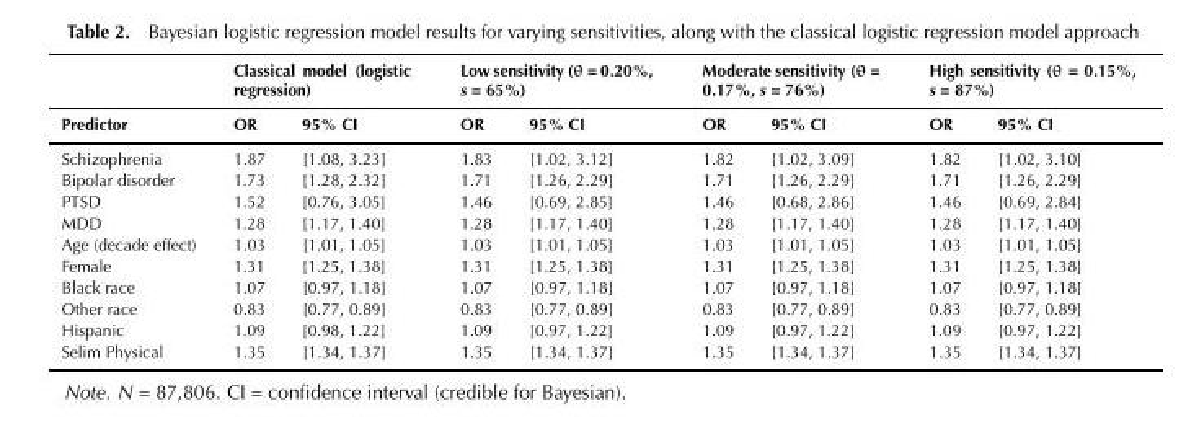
<table><thead><tr><td rowspan="2">Predictor</td><td colspan="2">Classical model (logistic regression)</td><td colspan="2">Low sensitivity (θ = 0.20%, s = 65%)</td><td colspan="2">Moderate sensitivity (θ = 0.17%, s = 76%)</td><td colspan="2">High sensitivity (θ = 0.15%, s = 87%)</td></tr><tr><td>OR</td><td>95% CI</td><td>OR</td><td>95% CI</td><td>OR</td><td>95% CI</td><td>OR</td><td>95% CI</td></tr></thead><tbody><tr><td>Schizophrenia</td><td>1.87</td><td>[1.08, 3.23]</td><td>1.83</td><td>[1.02, 3.12]</td><td>1.82</td><td>[1.02, 3.09]</td><td>1.82</td><td>[1.02, 3.10]</td></tr><tr><td>Bipolar disorder</td><td>1.73</td><td>[1.28, 2.32]</td><td>1.71</td><td>[1.26, 2.29]</td><td>1.71</td><td>[1.26, 2.29]</td><td>1.71</td><td>[1.26, 2.29]</td></tr><tr><td>PTSD</td><td>1.52</td><td>[0.76, 3.05]</td><td>1.46</td><td>[0.69, 2.85]</td><td>1.46</td><td>[0.68, 2.86]</td><td>1.46</td><td>[0.69, 2.84]</td></tr><tr><td>MDD</td><td>1.28</td><td>[1.17, 1.40]</td><td>1.28</td><td>[1.17, 1.40]</td><td>1.28</td><td>[1.17, 1.40]</td><td>1.28</td><td>[1.17, 1.40]</td></tr><tr><td>Age (decade effect)</td><td>1.03</td><td>[1.01, 1.05]</td><td>1.03</td><td>[1.01, 1.05]</td><td>1.03</td><td>[1.01, 1.05]</td><td>1.03</td><td>[1.01, 1.05]</td></tr><tr><td>Female</td><td>1.31</td><td>[1.25, 1.38]</td><td>1.31</td><td>[1.25, 1.38]</td><td>1.31</td><td>[1.25, 1.38]</td><td>1.31</td><td>[1.25, 1.38]</td></tr><tr><td>Black race</td><td>1.07</td><td>[0.97, 1.18]</td><td>1.07</td><td>[0.97, 1.18]</td><td>1.07</td><td>[0.97, 1.18]</td><td>1.07</td><td>[0.97, 1.18]</td></tr><tr><td>Other race</td><td>0.83</td><td>[0.77, 0.89]</td><td>0.83</td><td>[0.77, 0.89]</td><td>0.83</td><td>[0.77, 0.89]</td><td>0.83</td><td>[0.77, 0.89]</td></tr><tr><td>Hispanic</td><td>1.09</td><td>[0.98, 1.22]</td><td>1.09</td><td>[0.97, 1.22]</td><td>1.09</td><td>[0.97, 1.22]</td><td>1.09</td><td>[0.97, 1.22]</td></tr><tr><td>Selim Physical</td><td>1.35</td><td>[1.34, 1.37]</td><td>1.35</td><td>[1.34, 1.37]</td><td>1.35</td><td>[1.34, 1.37]</td><td>1.35</td><td>[1.34, 1.37]</td></tr></tbody></table>